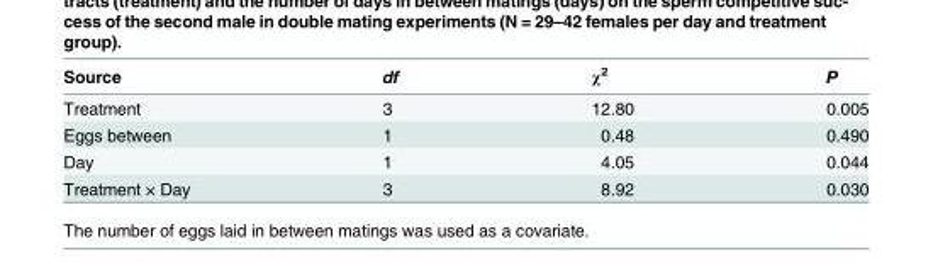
<table><thead><tr><td>Source</td><td>df</td><td>χ<sup>2</sup></td><td>P</td></tr></thead><tbody><tr><td>Treatment</td><td>3</td><td>12.80</td><td>0.005</td></tr><tr><td>Eggs between</td><td>1</td><td>0.48</td><td>0.490</td></tr><tr><td>Day</td><td>1</td><td>4.05</td><td>0.044</td></tr><tr><td>Treatment × Day</td><td>3</td><td>8.92</td><td>0.030</td></tr></tbody></table>